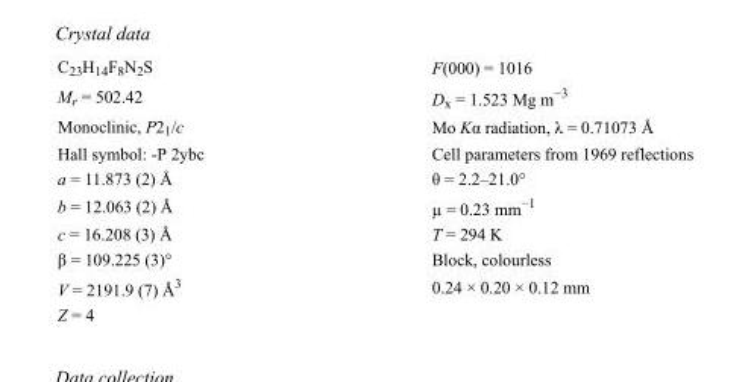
<table><tbody><tr><td>C<sub>23</sub>H<sub>14</sub>F<sub>8</sub>N<sub>2</sub>S</td><td>F(000) = 1016</td></tr><tr><td>M<sub>r</sub> = 502.42</td><td>D<sub>x</sub> = 1.523 Mg m<sup>−3</sup></td></tr><tr><td>Monoclinic, P2<sub>1</sub>/c</td><td>Mo Kα radiation, λ = 0.71073 Å</td></tr><tr><td>Hall symbol: -P 2ybc</td><td>Cell parameters from 1969 reflections</td></tr><tr><td>a = 11.873 (2) Å</td><td>θ = 2.2–21.0°</td></tr><tr><td>b = 12.063 (2) Å</td><td>µ = 0.23 mm<sup>−1</sup></td></tr><tr><td>c = 16.208 (3) Å</td><td>T = 294 K</td></tr><tr><td>β = 109.225 (3)°</td><td>Block, colourless</td></tr><tr><td>V = 2191.9 (7) Å<sup>3</sup></td><td>0.24 × 0.20 × 0.12 mm</td></tr><tr><td>Z = 4</td><td></td></tr></tbody></table>